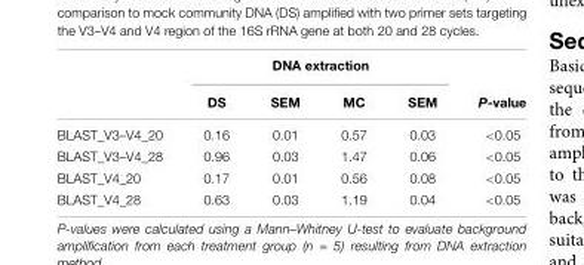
<table><thead><tr><td rowspan="2"></td><td colspan="4">DNA extraction</td><td rowspan="2">P-value</td></tr><tr><td>DS</td><td>SEM</td><td>MC</td><td>SEM</td></tr></thead><tbody><tr><td>BLAST_V3–V4_20</td><td>0.16</td><td>0.01</td><td>0.57</td><td>0.03</td><td>&lt;0.05</td></tr><tr><td>BLAST_V3–V4_28</td><td>0.96</td><td>0.03</td><td>1.47</td><td>0.06</td><td>&lt;0.05</td></tr><tr><td>BLAST_V4_20</td><td>0.17</td><td>0.01</td><td>0.56</td><td>0.08</td><td>&lt;0.05</td></tr><tr><td>BLAST_V4_28</td><td>0.63</td><td>0.03</td><td>1.19</td><td>0.04</td><td>&lt;0.05</td></tr></tbody></table>